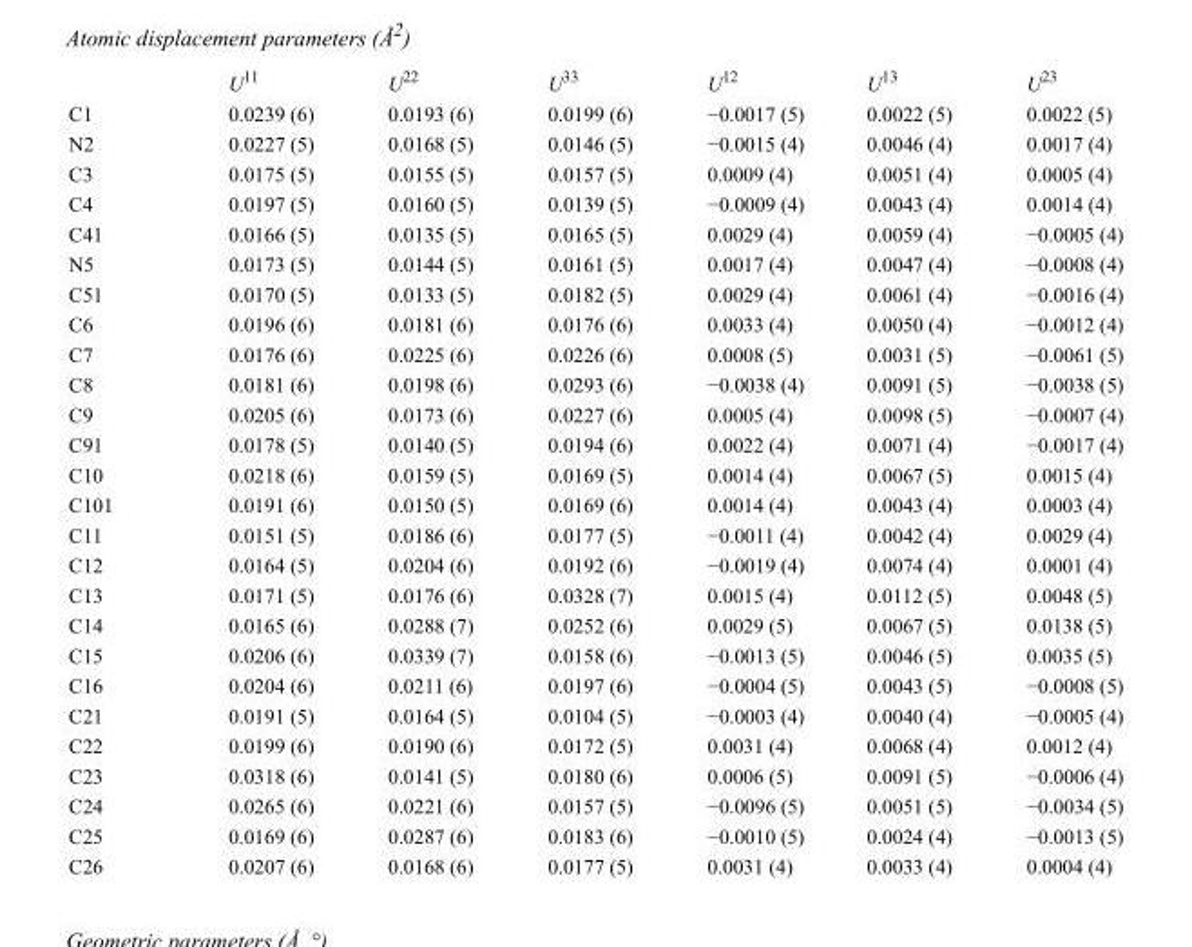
<table><thead><tr><td></td><td>U<sup>11</sup></td><td>U<sup>22</sup></td><td>U<sup>33</sup></td><td>U<sup>12</sup></td><td>U<sup>13</sup></td><td>U<sup>23</sup></td></tr></thead><tbody><tr><td>C1</td><td>0.0239 (6)</td><td>0.0193 (6)</td><td>0.0199 (6)</td><td>−0.0017 (5)</td><td>0.0022 (5)</td><td>0.0022 (5)</td></tr><tr><td>N2</td><td>0.0227 (5)</td><td>0.0168 (5)</td><td>0.0146 (5)</td><td>−0.0015 (4)</td><td>0.0046 (4)</td><td>0.0017 (4)</td></tr><tr><td>C3</td><td>0.0175 (5)</td><td>0.0155 (5)</td><td>0.0157 (5)</td><td>0.0009 (4)</td><td>0.0051 (4)</td><td>0.0005 (4)</td></tr><tr><td>C4</td><td>0.0197 (5)</td><td>0.0160 (5)</td><td>0.0139 (5)</td><td>−0.0009 (4)</td><td>0.0043 (4)</td><td>0.0014 (4)</td></tr><tr><td>C41</td><td>0.0166 (5)</td><td>0.0135 (5)</td><td>0.0165 (5)</td><td>0.0029 (4)</td><td>0.0059 (4)</td><td>−0.0005 (4)</td></tr><tr><td>N5</td><td>0.0173 (5)</td><td>0.0144 (5)</td><td>0.0161 (5)</td><td>0.0017 (4)</td><td>0.0047 (4)</td><td>−0.0008 (4)</td></tr><tr><td>C51</td><td>0.0170 (5)</td><td>0.0133 (5)</td><td>0.0182 (5)</td><td>0.0029 (4)</td><td>0.0061 (4)</td><td>−0.0016 (4)</td></tr><tr><td>C6</td><td>0.0196 (6)</td><td>0.0181 (6)</td><td>0.0176 (6)</td><td>0.0033 (4)</td><td>0.0050 (4)</td><td>−0.0012 (4)</td></tr><tr><td>C7</td><td>0.0176 (6)</td><td>0.0225 (6)</td><td>0.0226 (6)</td><td>0.0008 (5)</td><td>0.0031 (5)</td><td>−0.0061 (5)</td></tr><tr><td>C8</td><td>0.0181 (6)</td><td>0.0198 (6)</td><td>0.0293 (6)</td><td>−0.0038 (4)</td><td>0.0091 (5)</td><td>−0.0038 (5)</td></tr><tr><td>C9</td><td>0.0205 (6)</td><td>0.0173 (6)</td><td>0.0227 (6)</td><td>0.0005 (4)</td><td>0.0098 (5)</td><td>−0.0007 (4)</td></tr><tr><td>C91</td><td>0.0178 (5)</td><td>0.0140 (5)</td><td>0.0194 (6)</td><td>0.0022 (4)</td><td>0.0071 (4)</td><td>−0.0017 (4)</td></tr><tr><td>C10</td><td>0.0218 (6)</td><td>0.0159 (5)</td><td>0.0169 (5)</td><td>0.0014 (4)</td><td>0.0067 (5)</td><td>0.0015 (4)</td></tr><tr><td>C101</td><td>0.0191 (6)</td><td>0.0150 (5)</td><td>0.0169 (6)</td><td>0.0014 (4)</td><td>0.0043 (4)</td><td>0.0003 (4)</td></tr><tr><td>C11</td><td>0.0151 (5)</td><td>0.0186 (6)</td><td>0.0177 (5)</td><td>−0.0011 (4)</td><td>0.0042 (4)</td><td>0.0029 (4)</td></tr><tr><td>C12</td><td>0.0164 (5)</td><td>0.0204 (6)</td><td>0.0192 (6)</td><td>−0.0019 (4)</td><td>0.0074 (4)</td><td>0.0001 (4)</td></tr><tr><td>C13</td><td>0.0171 (5)</td><td>0.0176 (6)</td><td>0.0328 (7)</td><td>0.0015 (4)</td><td>0.0112 (5)</td><td>0.0048 (5)</td></tr><tr><td>C14</td><td>0.0165 (6)</td><td>0.0288 (7)</td><td>0.0252 (6)</td><td>0.0029 (5)</td><td>0.0067 (5)</td><td>0.0138 (5)</td></tr><tr><td>C15</td><td>0.0206 (6)</td><td>0.0339 (7)</td><td>0.0158 (6)</td><td>−0.0013 (5)</td><td>0.0046 (5)</td><td>0.0035 (5)</td></tr><tr><td>C16</td><td>0.0204 (6)</td><td>0.0211 (6)</td><td>0.0197 (6)</td><td>−0.0004 (5)</td><td>0.0043 (5)</td><td>−0.0008 (5)</td></tr><tr><td>C21</td><td>0.0191 (5)</td><td>0.0164 (5)</td><td>0.0104 (5)</td><td>−0.0003 (4)</td><td>0.0040 (4)</td><td>−0.0005 (4)</td></tr><tr><td>C22</td><td>0.0199 (6)</td><td>0.0190 (6)</td><td>0.0172 (5)</td><td>0.0031 (4)</td><td>0.0068 (4)</td><td>0.0012 (4)</td></tr><tr><td>C23</td><td>0.0318 (6)</td><td>0.0141 (5)</td><td>0.0180 (6)</td><td>0.0006 (5)</td><td>0.0091 (5)</td><td>−0.0006 (4)</td></tr><tr><td>C24</td><td>0.0265 (6)</td><td>0.0221 (6)</td><td>0.0157 (5)</td><td>−0.0096 (5)</td><td>0.0051 (5)</td><td>−0.0034 (5)</td></tr><tr><td>C25</td><td>0.0169 (6)</td><td>0.0287 (6)</td><td>0.0183 (6)</td><td>−0.0010 (5)</td><td>0.0024 (4)</td><td>−0.0013 (5)</td></tr><tr><td>C26</td><td>0.0207 (6)</td><td>0.0168 (6)</td><td>0.0177 (5)</td><td>0.0031 (4)</td><td>0.0033 (4)</td><td>0.0004 (4)</td></tr></tbody></table>